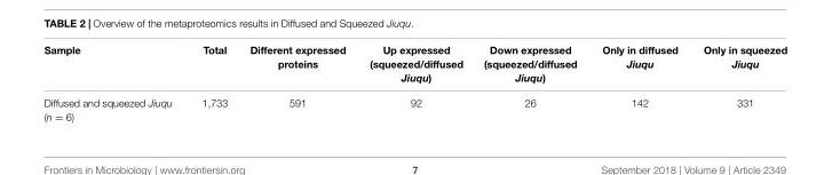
<table><thead><tr><td>Sample</td><td>Total</td><td>Different expressed proteins</td><td>Up expressed (squeezed/diffused Jiuqu)</td><td>Down expressed (squeezed/diffused Jiuqu)</td><td>Only in diffused Jiuqu</td><td>Only in squeezed Jiuqu</td></tr></thead><tbody><tr><td>Diffused and squeezed Jiuqu (n = 6)</td><td>1,733</td><td>591</td><td>92</td><td>26</td><td>142</td><td>331</td></tr></tbody></table>